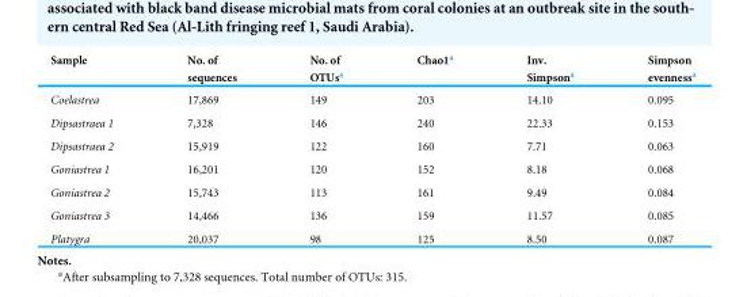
<table><thead><tr><td>Sample</td><td>No. of sequences</td><td>No. of OTUs<sup>a</sup></td><td>Chao1<sup>a</sup></td><td>Inv. Simpson<sup>a</sup></td><td>Simpson evenness<sup>a</sup></td></tr></thead><tbody><tr><td>Coelastrea</td><td>17,869</td><td>149</td><td>203</td><td>14.10</td><td>0.095</td></tr><tr><td>Dipsastraea 1</td><td>7,328</td><td>146</td><td>240</td><td>22.33</td><td>0.153</td></tr><tr><td>Dipsastraea 2</td><td>15,919</td><td>122</td><td>160</td><td>7.71</td><td>0.063</td></tr><tr><td>Goniastrea 1</td><td>16,201</td><td>120</td><td>152</td><td>8.18</td><td>0.068</td></tr><tr><td>Goniastrea 2</td><td>15,743</td><td>113</td><td>161</td><td>9.49</td><td>0.084</td></tr><tr><td>Goniastrea 3</td><td>14,466</td><td>136</td><td>159</td><td>11.57</td><td>0.085</td></tr><tr><td>Platygra</td><td>20,037</td><td>98</td><td>125</td><td>8.50</td><td>0.087</td></tr></tbody></table>